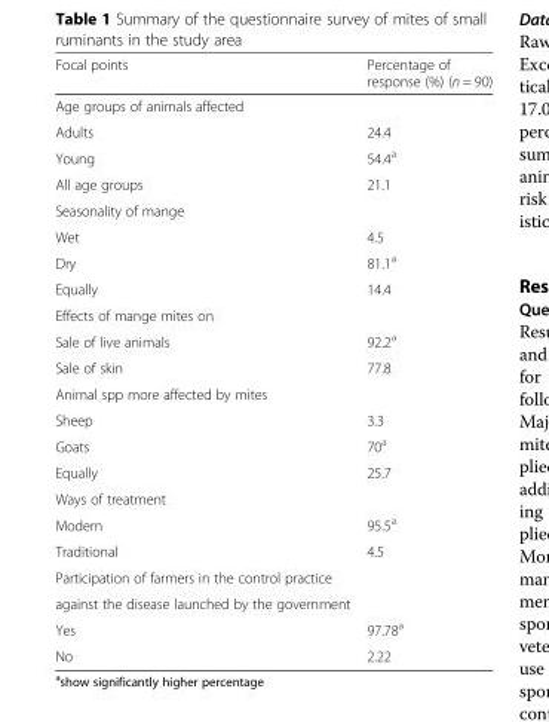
<table><thead><tr><td>Focal points</td><td>Percentage of response (%) (n = 90)</td></tr></thead><tbody><tr><td colspan="2">Age groups of animals affected</td></tr><tr><td>Adults</td><td>24.4</td></tr><tr><td>Young</td><td>54.4<sup>a</sup></td></tr><tr><td>All age groups</td><td>21.1</td></tr><tr><td colspan="2">Seasonality of mange</td></tr><tr><td>Wet</td><td>4.5</td></tr><tr><td>Dry</td><td>81.1<sup>a</sup></td></tr><tr><td>Equally</td><td>14.4</td></tr><tr><td colspan="2">Effects of mange mites on</td></tr><tr><td>Sale of live animals</td><td>92.2<sup>a</sup></td></tr><tr><td>Sale of skin</td><td>77.8</td></tr><tr><td colspan="2">Animal spp more affected by mites</td></tr><tr><td>Sheep</td><td>3.3</td></tr><tr><td>Goats</td><td>70<sup>a</sup></td></tr><tr><td>Equally</td><td>25.7</td></tr><tr><td colspan="2">Ways of treatment</td></tr><tr><td>Modern</td><td>95.5<sup>a</sup></td></tr><tr><td>Traditional</td><td>4.5</td></tr><tr><td colspan="2">Participation of farmers in the control practice</td></tr><tr><td colspan="2">against the disease launched by the government</td></tr><tr><td>Yes</td><td>97.78<sup>a</sup></td></tr><tr><td>No</td><td>2.22</td></tr></tbody></table>